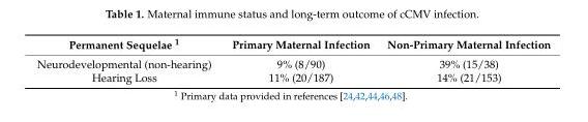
<table><thead><tr><td>Permanent Sequelae <sup>1</sup></td><td>Primary Maternal Infection</td><td>Non-Primary Maternal Infection</td></tr></thead><tbody><tr><td>Neurodevelopmental (non-hearing)</td><td>9% (8/90)</td><td>39% (15/38)</td></tr><tr><td>Hearing Loss</td><td>11% (20/187)</td><td>14% (21/153)</td></tr></tbody></table>